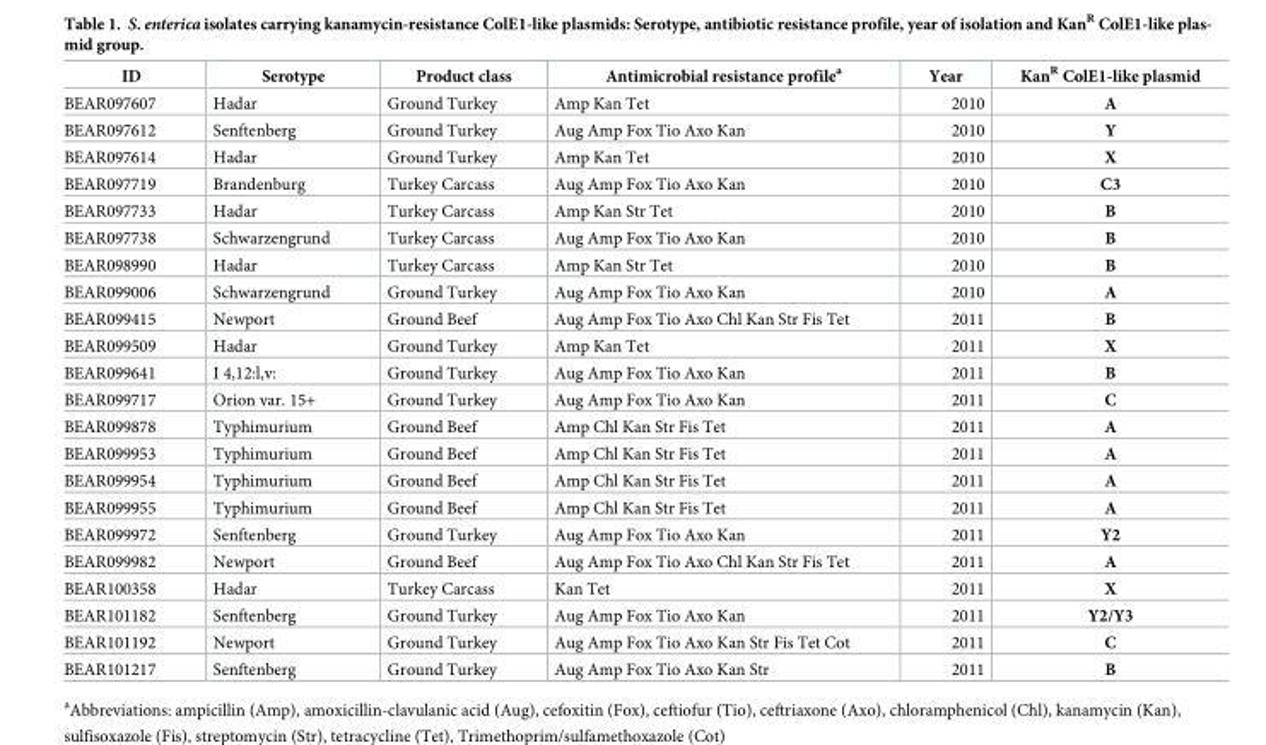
<table><thead><tr><td>ID</td><td>Serotype</td><td>Product class</td><td>Antimicrobial resistance profile<sup>a</sup></td><td>Year</td><td>Kan<sup>R</sup> ColE1-like plasmid</td></tr></thead><tbody><tr><td>BEAR097607</td><td>Hadar</td><td>Ground Turkey</td><td>Amp Kan Tet</td><td>2010</td><td>A</td></tr><tr><td>BEAR097612</td><td>Senftenberg</td><td>Ground Turkey</td><td>Aug Amp Fox Tio Axo Kan</td><td>2010</td><td>Y</td></tr><tr><td>BEAR097614</td><td>Hadar</td><td>Ground Turkey</td><td>Amp Kan Tet</td><td>2010</td><td>X</td></tr><tr><td>BEAR097719</td><td>Brandenburg</td><td>Turkey Carcass</td><td>Aug Amp Fox Tio Axo Kan</td><td>2010</td><td>C3</td></tr><tr><td>BEAR097733</td><td>Hadar</td><td>Turkey Carcass</td><td>Amp Kan Str Tet</td><td>2010</td><td>B</td></tr><tr><td>BEAR097738</td><td>Schwarzengrund</td><td>Turkey Carcass</td><td>Aug Amp Fox Tio Axo Kan</td><td>2010</td><td>B</td></tr><tr><td>BEAR098990</td><td>Hadar</td><td>Turkey Carcass</td><td>Amp Kan Str Tet</td><td>2010</td><td>B</td></tr><tr><td>BEAR099006</td><td>Schwarzengrund</td><td>Ground Turkey</td><td>Aug Amp Fox Tio Axo Kan</td><td>2010</td><td>A</td></tr><tr><td>BEAR099415</td><td>Newport</td><td>Ground Beef</td><td>Aug Amp Fox Tio Axo Chl Kan Str Fis Tet</td><td>2011</td><td>B</td></tr><tr><td>BEAR099509</td><td>Hadar</td><td>Ground Turkey</td><td>Amp Kan Tet</td><td>2011</td><td>X</td></tr><tr><td>BEAR099641</td><td>I 4,12:l,v:</td><td>Ground Turkey</td><td>Aug Amp Fox Tio Axo Kan</td><td>2011</td><td>B</td></tr><tr><td>BEAR099717</td><td>Orion var. 15+</td><td>Ground Turkey</td><td>Aug Amp Fox Tio Axo Kan</td><td>2011</td><td>C</td></tr><tr><td>BEAR099878</td><td>Typhimurium</td><td>Ground Beef</td><td>Amp Chl Kan Str Fis Tet</td><td>2011</td><td>A</td></tr><tr><td>BEAR099953</td><td>Typhimurium</td><td>Ground Beef</td><td>Amp Chl Kan Str Fis Tet</td><td>2011</td><td>A</td></tr><tr><td>BEAR099954</td><td>Typhimurium</td><td>Ground Beef</td><td>Amp Chl Kan Str Fis Tet</td><td>2011</td><td>A</td></tr><tr><td>BEAR099955</td><td>Typhimurium</td><td>Ground Beef</td><td>Amp Chl Kan Str Fis Tet</td><td>2011</td><td>A</td></tr><tr><td>BEAR099972</td><td>Senftenberg</td><td>Ground Turkey</td><td>Aug Amp Fox Tio Axo Kan</td><td>2011</td><td>Y2</td></tr><tr><td>BEAR099982</td><td>Newport</td><td>Ground Beef</td><td>Aug Amp Fox Tio Axo Chl Kan Str Fis Tet</td><td>2011</td><td>A</td></tr><tr><td>BEAR100358</td><td>Hadar</td><td>Turkey Carcass</td><td>Kan Tet</td><td>2011</td><td>X</td></tr><tr><td>BEAR101182</td><td>Senftenberg</td><td>Ground Turkey</td><td>Aug Amp Fox Tio Axo Kan</td><td>2011</td><td>Y2/Y3</td></tr><tr><td>BEAR101192</td><td>Newport</td><td>Ground Turkey</td><td>Aug Amp Fox Tio Axo Kan Str Fis Tet Cot</td><td>2011</td><td>C</td></tr><tr><td>BEAR101217</td><td>Senftenberg</td><td>Ground Turkey</td><td>Aug Amp Fox Tio Axo Kan Str</td><td>2011</td><td>B</td></tr></tbody></table>